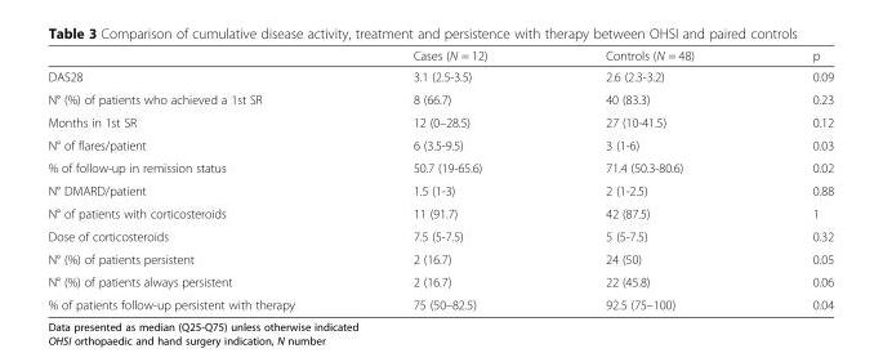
<table><thead><tr><td></td><td>Cases (N = 12)</td><td>Controls (N = 48)</td><td>p</td></tr></thead><tbody><tr><td>DAS28</td><td>3.1 (2.5-3.5)</td><td>2.6 (2.3-3.2)</td><td>0.09</td></tr><tr><td>N° (%) of patients who achieved a 1st SR</td><td>8 (66.7)</td><td>40 (83.3)</td><td>0.23</td></tr><tr><td>Months in 1st SR</td><td>12 (0–28.5)</td><td>27 (10-41.5)</td><td>0.12</td></tr><tr><td>N° of flares/patient</td><td>6 (3.5-9.5)</td><td>3 (1-6)</td><td>0.03</td></tr><tr><td>% of follow-up in remission status</td><td>50.7 (19-65.6)</td><td>71.4 (50.3-80.6)</td><td>0.02</td></tr><tr><td>N° DMARD/patient</td><td>1.5 (1-3)</td><td>2 (1-2.5)</td><td>0.88</td></tr><tr><td>N° of patients with corticosteroids</td><td>11 (91.7)</td><td>42 (87.5)</td><td>1</td></tr><tr><td>Dose of corticosteroids</td><td>7.5 (5-7.5)</td><td>5 (5-7.5)</td><td>0.32</td></tr><tr><td>N° (%) of patients persistent</td><td>2 (16.7)</td><td>24 (50)</td><td>0.05</td></tr><tr><td>N° (%) of patients always persistent</td><td>2 (16.7)</td><td>22 (45.8)</td><td>0.06</td></tr><tr><td>% of patients follow-up persistent with therapy</td><td>75 (50–82.5)</td><td>92.5 (75–100)</td><td>0.04</td></tr></tbody></table>